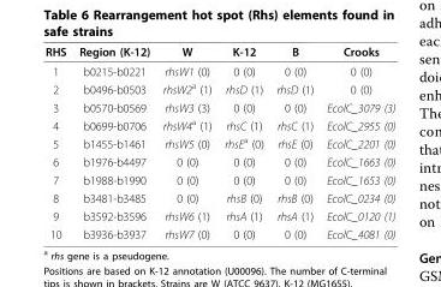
<table><thead><tr><td>RHS</td><td>Region (K-12)</td><td>W</td><td>K-12</td><td>B</td><td>Crooks</td></tr></thead><tbody><tr><td>1</td><td>b0215-b0221</td><td>rhsW1 (0)</td><td>0 (0)</td><td>0 (0)</td><td>0 (0)</td></tr><tr><td>2</td><td>b0496-b0503</td><td>rhsW2<sup>a</sup> (1)</td><td>rhsD (1)</td><td>rhsD (1)</td><td>0 (0)</td></tr><tr><td>3</td><td>b0570-b0569</td><td>rhsW3 (3)</td><td>0 (0)</td><td>0 (0)</td><td>EcolC_3079 (3)</td></tr><tr><td>4</td><td>b0699-b0706</td><td>rhsW4<sup>a</sup> (1)</td><td>rhsC (1)</td><td>rhsC (1)</td><td>EcolC_2955 (0)</td></tr><tr><td>5</td><td>b1455-b1461</td><td>rhsW5 (0)</td><td>rhsE<sup>a</sup> (0)</td><td>rhsE (0)</td><td>EcolC_2201 (0)</td></tr><tr><td>6</td><td>b1976-b4497</td><td>0 (0)</td><td>0 (0)</td><td>0 (0)</td><td>EcolC_1663 (0)</td></tr><tr><td>7</td><td>b1988-b1990</td><td>0 (0)</td><td>0 (0)</td><td>0 (0)</td><td>EcolC_1653 (0)</td></tr><tr><td>8</td><td>b3481-b3485</td><td>0 (0)</td><td>rhsB (0)</td><td>rhsB (0)</td><td>EcolC_0234 (0)</td></tr><tr><td>9</td><td>b3592-b3596</td><td>rhsW6 (1)</td><td>rhsA (1)</td><td>rhsA (1)</td><td>EcolC_0120 (1)</td></tr><tr><td>10</td><td>b3936-b3937</td><td>rhsW7 (0)</td><td>0 (0)</td><td>0 (0)</td><td>EcolC_4081 (0)</td></tr></tbody></table>